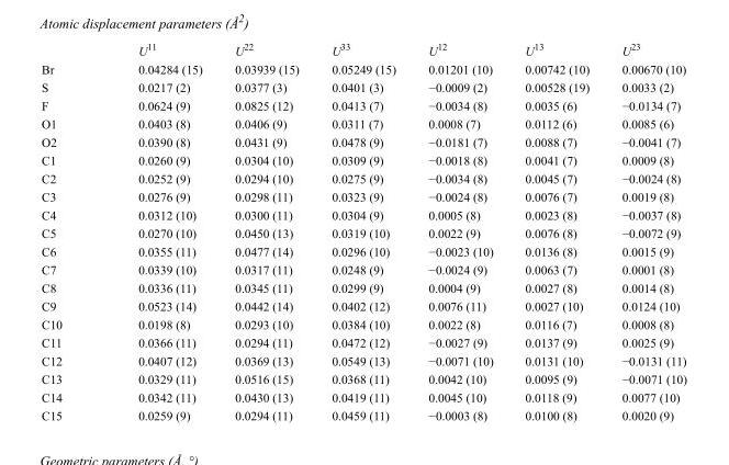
<table><thead><tr><td></td><td>U<sup>11</sup></td><td>U<sup>22</sup></td><td>U<sup>33</sup></td><td>U<sup>12</sup></td><td>U<sup>13</sup></td><td>U<sup>23</sup></td></tr></thead><tbody><tr><td>Br</td><td>0.04284 (15)</td><td>0.03939 (15)</td><td>0.05249 (15)</td><td>0.01201 (10)</td><td>0.00742 (10)</td><td>0.00670 (10)</td></tr><tr><td>S</td><td>0.0217 (2)</td><td>0.0377 (3)</td><td>0.0401 (3)</td><td>−0.0009 (2)</td><td>0.00528 (19)</td><td>0.0033 (2)</td></tr><tr><td>F</td><td>0.0624 (9)</td><td>0.0825 (12)</td><td>0.0413 (7)</td><td>−0.0034 (8)</td><td>0.0035 (6)</td><td>−0.0134 (7)</td></tr><tr><td>O1</td><td>0.0403 (8)</td><td>0.0406 (9)</td><td>0.0311 (7)</td><td>0.0008 (7)</td><td>0.0112 (6)</td><td>0.0085 (6)</td></tr><tr><td>O2</td><td>0.0390 (8)</td><td>0.0431 (9)</td><td>0.0478 (9)</td><td>−0.0181 (7)</td><td>0.0088 (7)</td><td>−0.0041 (7)</td></tr><tr><td>C1</td><td>0.0260 (9)</td><td>0.0304 (10)</td><td>0.0309 (9)</td><td>−0.0018 (8)</td><td>0.0041 (7)</td><td>0.0009 (8)</td></tr><tr><td>C2</td><td>0.0252 (9)</td><td>0.0294 (10)</td><td>0.0275 (9)</td><td>−0.0034 (8)</td><td>0.0045 (7)</td><td>−0.0024 (8)</td></tr><tr><td>C3</td><td>0.0276 (9)</td><td>0.0298 (11)</td><td>0.0323 (9)</td><td>−0.0024 (8)</td><td>0.0076 (7)</td><td>0.0019 (8)</td></tr><tr><td>C4</td><td>0.0312 (10)</td><td>0.0300 (11)</td><td>0.0304 (9)</td><td>0.0005 (8)</td><td>0.0023 (8)</td><td>−0.0037 (8)</td></tr><tr><td>C5</td><td>0.0270 (10)</td><td>0.0450 (13)</td><td>0.0319 (10)</td><td>0.0022 (9)</td><td>0.0076 (8)</td><td>−0.0072 (9)</td></tr><tr><td>C6</td><td>0.0355 (11)</td><td>0.0477 (14)</td><td>0.0296 (10)</td><td>−0.0023 (10)</td><td>0.0136 (8)</td><td>0.0015 (9)</td></tr><tr><td>C7</td><td>0.0339 (10)</td><td>0.0317 (11)</td><td>0.0248 (9)</td><td>−0.0024 (9)</td><td>0.0063 (7)</td><td>0.0001 (8)</td></tr><tr><td>C8</td><td>0.0336 (11)</td><td>0.0345 (11)</td><td>0.0299 (9)</td><td>0.0004 (9)</td><td>0.0027 (8)</td><td>0.0014 (8)</td></tr><tr><td>C9</td><td>0.0523 (14)</td><td>0.0442 (14)</td><td>0.0402 (12)</td><td>0.0076 (11)</td><td>0.0027 (10)</td><td>0.0124 (10)</td></tr><tr><td>C10</td><td>0.0198 (8)</td><td>0.0293 (10)</td><td>0.0384 (10)</td><td>0.0022 (8)</td><td>0.0116 (7)</td><td>0.0008 (8)</td></tr><tr><td>C11</td><td>0.0366 (11)</td><td>0.0294 (11)</td><td>0.0472 (12)</td><td>−0.0027 (9)</td><td>0.0137 (9)</td><td>0.0025 (9)</td></tr><tr><td>C12</td><td>0.0407 (12)</td><td>0.0369 (13)</td><td>0.0549 (13)</td><td>−0.0071 (10)</td><td>0.0131 (10)</td><td>−0.0131 (11)</td></tr><tr><td>C13</td><td>0.0329 (11)</td><td>0.0516 (15)</td><td>0.0368 (11)</td><td>0.0042 (10)</td><td>0.0095 (9)</td><td>−0.0071 (10)</td></tr><tr><td>C14</td><td>0.0342 (11)</td><td>0.0430 (13)</td><td>0.0419 (11)</td><td>0.0045 (10)</td><td>0.0118 (9)</td><td>0.0077 (10)</td></tr><tr><td>C15</td><td>0.0259 (9)</td><td>0.0294 (11)</td><td>0.0459 (11)</td><td>−0.0003 (8)</td><td>0.0100 (8)</td><td>0.0020 (9)</td></tr></tbody></table>